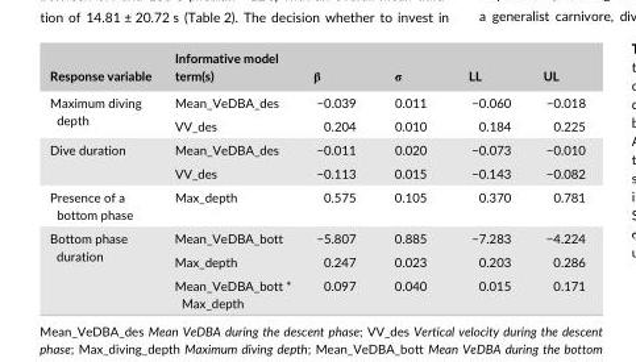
<table><thead><tr><td>Response variable</td><td>Informative model term(s)</td><td>β</td><td>σ</td><td>LL</td><td>UL</td></tr></thead><tbody><tr><td rowspan="2">Maximum diving depth</td><td>Mean_VeDBA_des</td><td>−0.039</td><td>0.011</td><td>−0.060</td><td>−0.018</td></tr><tr><td>VV_des</td><td>0.204</td><td>0.010</td><td>0.184</td><td>0.225</td></tr><tr><td rowspan="2">Dive duration</td><td>Mean_VeDBA_des</td><td>−0.011</td><td>0.020</td><td>−0.073</td><td>−0.010</td></tr><tr><td>VV_des</td><td>−0.113</td><td>0.015</td><td>−0.143</td><td>−0.082</td></tr><tr><td>Presence of a bottom phase</td><td>Max_depth</td><td>0.575</td><td>0.105</td><td>0.370</td><td>0.781</td></tr><tr><td rowspan="3">Bottom phase duration</td><td>Mean_VeDBA_bott</td><td>−5.807</td><td>0.885</td><td>−7.283</td><td>−4.224</td></tr><tr><td>Max_depth</td><td>0.247</td><td>0.023</td><td>0.203</td><td>0.286</td></tr><tr><td>Mean_VeDBA_bott * Max_depth</td><td>0.097</td><td>0.040</td><td>0.015</td><td>0.171</td></tr></tbody></table>